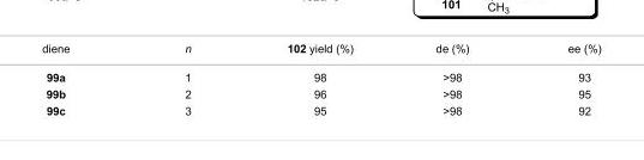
<table><tbody><tr><td>diene</td><td>n</td><td>102 yield (%)</td><td>de (%)</td><td>ee (%)</td></tr><tr><td>99a</td><td>1</td><td>98</td><td>&gt;98</td><td>93</td></tr><tr><td>99b</td><td>2</td><td>96</td><td>&gt;98</td><td>95</td></tr><tr><td>99c</td><td>3</td><td>95</td><td>&gt;98</td><td>92</td></tr></tbody></table>